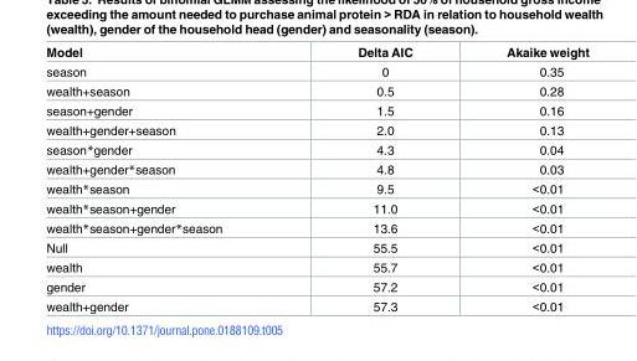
<table><thead><tr><td>Model</td><td>Delta AIC</td><td>Akaike weight</td></tr></thead><tbody><tr><td>season</td><td>0</td><td>0.35</td></tr><tr><td>wealth+season</td><td>0.5</td><td>0.28</td></tr><tr><td>season+gender</td><td>1.5</td><td>0.16</td></tr><tr><td>wealth+gender+season</td><td>2.0</td><td>0.13</td></tr><tr><td>season*gender</td><td>4.3</td><td>0.04</td></tr><tr><td>wealth+gender*season</td><td>4.8</td><td>0.03</td></tr><tr><td>wealth*season</td><td>9.5</td><td>&lt;0.01</td></tr><tr><td>wealth*season+gender</td><td>11.0</td><td>&lt;0.01</td></tr><tr><td>wealth*season+gender*season</td><td>13.6</td><td>&lt;0.01</td></tr><tr><td>Null</td><td>55.5</td><td>&lt;0.01</td></tr><tr><td>wealth</td><td>55.7</td><td>&lt;0.01</td></tr><tr><td>gender</td><td>57.2</td><td>&lt;0.01</td></tr><tr><td>wealth+gender</td><td>57.3</td><td>&lt;0.01</td></tr></tbody></table>